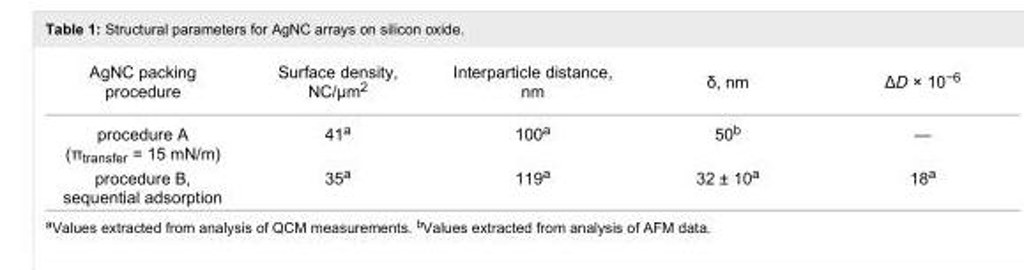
<table><tbody><tr><td>AgNC packing procedure</td><td>Surface density, NC/µm<sup>2</sup></td><td>Interparticle distance, nm</td><td>δ, nm</td><td>ΔD × 10<sup>−6</sup></td></tr><tr><td>procedure A (π<sub>transfer</sub> = 15 mN/m)</td><td>41<sup>a</sup></td><td>100<sup>a</sup></td><td>50<sup>b</sup></td><td>—</td></tr><tr><td>procedure B, sequential adsorption</td><td>35<sup>a</sup></td><td>119<sup>a</sup></td><td>32 ± 10<sup>a</sup></td><td>18<sup>a</sup></td></tr></tbody></table>